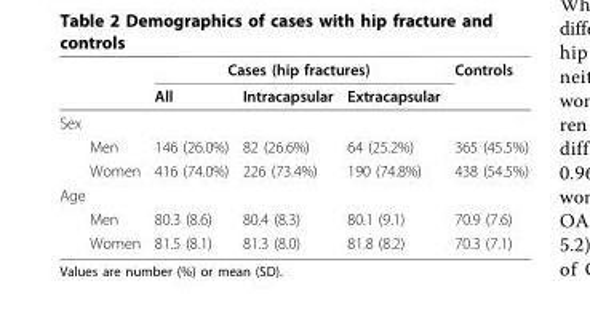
<table><thead><tr><td rowspan="2"></td><td colspan="3">Cases (hip fractures)</td><td rowspan="2">Controls</td></tr><tr><td>All</td><td>Intracapsular</td><td>Extracapsular</td></tr></thead><tbody><tr><td colspan="5">Sex</td></tr><tr><td>Men</td><td>146 (26.0%)</td><td>82 (26.6%)</td><td>64 (25.2%)</td><td>365 (45.5%)</td></tr><tr><td>Women</td><td>416 (74.0%)</td><td>226 (73.4%)</td><td>190 (74.8%)</td><td>438 (54.5%)</td></tr><tr><td colspan="5">Age</td></tr><tr><td>Men</td><td>80.3 (8.6)</td><td>80.4 (8.3)</td><td>80.1 (9.1)</td><td>70.9 (7.6)</td></tr><tr><td>Women</td><td>81.5 (8.1)</td><td>81.3 (8.0)</td><td>81.8 (8.2)</td><td>70.3 (7.1)</td></tr></tbody></table>